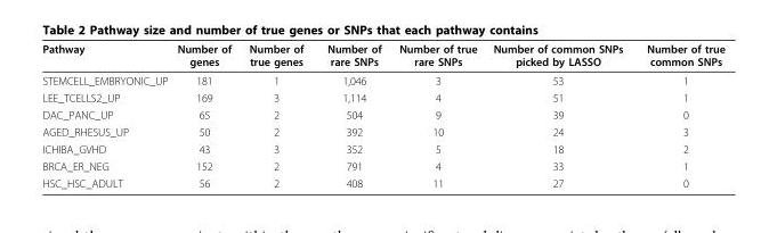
<table><thead><tr><td>Pathway</td><td>Number of genes</td><td>Number of true genes</td><td>Number of rare SNPs</td><td>Number of true rare SNPs</td><td>Number of common SNPs picked by LASSO</td><td>Number of true common SNPs</td></tr></thead><tbody><tr><td>STEMCELL_EMBRYONIC_UP</td><td>181</td><td>1</td><td>1,046</td><td>3</td><td>53</td><td>1</td></tr><tr><td>LEE_TCELLS2_UP</td><td>169</td><td>3</td><td>1,114</td><td>4</td><td>51</td><td>1</td></tr><tr><td>DAC_PANC_UP</td><td>65</td><td>2</td><td>504</td><td>9</td><td>39</td><td>0</td></tr><tr><td>AGED_RHESUS_UP</td><td>50</td><td>2</td><td>392</td><td>10</td><td>24</td><td>3</td></tr><tr><td>ICHIBA_GVHD</td><td>43</td><td>3</td><td>352</td><td>5</td><td>18</td><td>2</td></tr><tr><td>BRCA_ER_NEG</td><td>152</td><td>2</td><td>791</td><td>4</td><td>33</td><td>1</td></tr><tr><td>HSC_HSC_ADULT</td><td>56</td><td>2</td><td>408</td><td>11</td><td>27</td><td>0</td></tr></tbody></table>